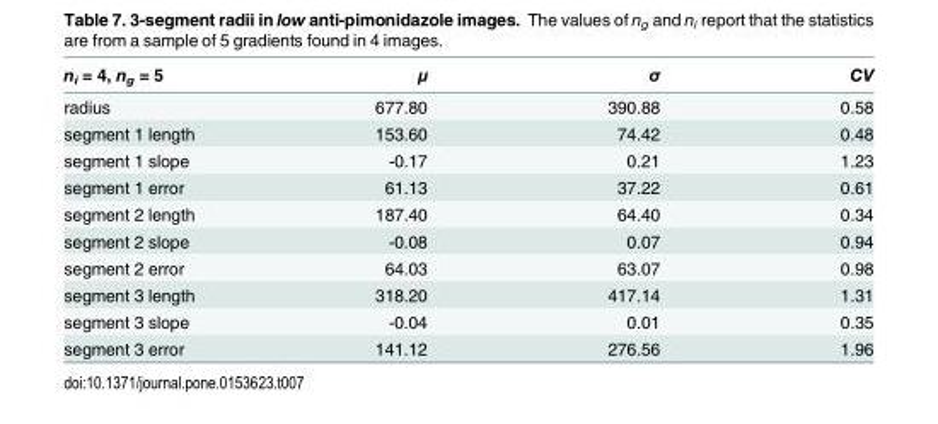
<table><thead><tr><td>n<sub>i</sub> = 4, n<sub>g</sub> = 5</td><td>μ</td><td>σ</td><td>CV</td></tr></thead><tbody><tr><td>radius</td><td>677.80</td><td>390.88</td><td>0.58</td></tr><tr><td>segment 1 length</td><td>153.60</td><td>74.42</td><td>0.48</td></tr><tr><td>segment 1 slope</td><td>-0.17</td><td>0.21</td><td>1.23</td></tr><tr><td>segment 1 error</td><td>61.13</td><td>37.22</td><td>0.61</td></tr><tr><td>segment 2 length</td><td>187.40</td><td>64.40</td><td>0.34</td></tr><tr><td>segment 2 slope</td><td>-0.08</td><td>0.07</td><td>0.94</td></tr><tr><td>segment 2 error</td><td>64.03</td><td>63.07</td><td>0.98</td></tr><tr><td>segment 3 length</td><td>318.20</td><td>417.14</td><td>1.31</td></tr><tr><td>segment 3 slope</td><td>-0.04</td><td>0.01</td><td>0.35</td></tr><tr><td>segment 3 error</td><td>141.12</td><td>276.56</td><td>1.96</td></tr></tbody></table>